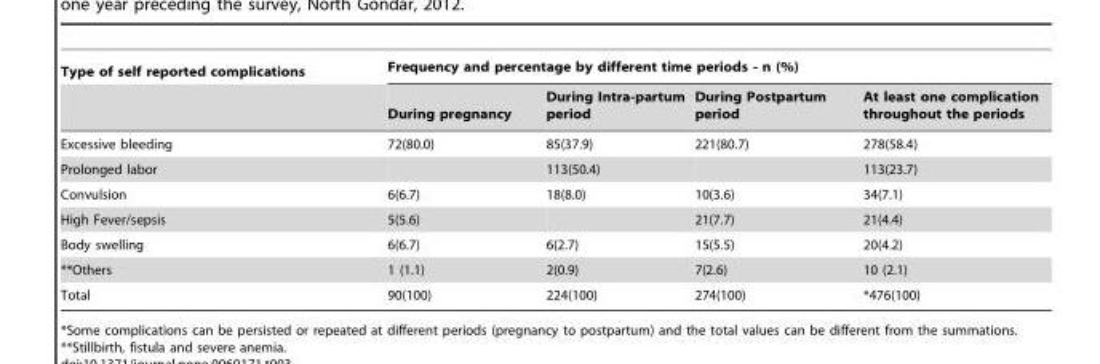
<table><thead><tr><td rowspan="2">Type of self reported complications</td><td colspan="4">Frequency and percentage by different time periods - n (%)</td></tr><tr><td>During pregnancy</td><td>During Intra-partum period</td><td>During Postpartum period</td><td>At least one complication throughout the periods</td></tr></thead><tbody><tr><td>Excessive bleeding</td><td>72(80.0)</td><td>85(37.9)</td><td>221(80.7)</td><td>278(58.4)</td></tr><tr><td>Prolonged labor</td><td></td><td>113(50.4)</td><td></td><td>113(23.7)</td></tr><tr><td>Convulsion</td><td>6(6.7)</td><td>18(8.0)</td><td>10(3.6)</td><td>34(7.1)</td></tr><tr><td>High Fever/sepsis</td><td>5(5.6)</td><td></td><td>21(7.7)</td><td>21(4.4)</td></tr><tr><td>Body swelling</td><td>6(6.7)</td><td>6(2.7)</td><td>15(5.5)</td><td>20(4.2)</td></tr><tr><td>**Others</td><td>1 (1.1)</td><td>2(0.9)</td><td>7(2.6)</td><td>10 (2.1)</td></tr><tr><td>Total</td><td>90(100)</td><td>224(100)</td><td>274(100)</td><td>*476(100)</td></tr></tbody></table>